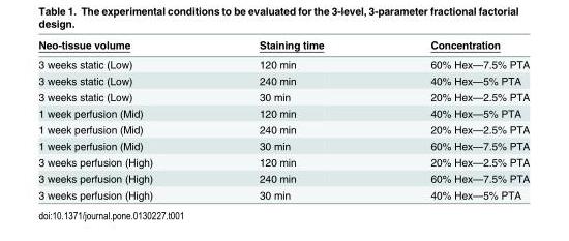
<table><thead><tr><td>Neo-tissue volume</td><td>Staining time</td><td>Concentration</td></tr></thead><tbody><tr><td>3 weeks static (Low)</td><td>120 min</td><td>60% Hex—7.5% PTA</td></tr><tr><td>3 weeks static (Low)</td><td>240 min</td><td>40% Hex—5% PTA</td></tr><tr><td>3 weeks static (Low)</td><td>30 min</td><td>20% Hex—2.5% PTA</td></tr><tr><td>1 week perfusion (Mid)</td><td>120 min</td><td>40% Hex—5% PTA</td></tr><tr><td>1 week perfusion (Mid)</td><td>240 min</td><td>20% Hex—2.5% PTA</td></tr><tr><td>1 week perfusion (Mid)</td><td>30 min</td><td>60% Hex—7.5% PTA</td></tr><tr><td>3 weeks perfusion (High)</td><td>120 min</td><td>20% Hex—2.5% PTA</td></tr><tr><td>3 weeks perfusion (High)</td><td>240 min</td><td>60% Hex—7.5% PTA</td></tr><tr><td>3 weeks perfusion (High)</td><td>30 min</td><td>40% Hex—5% PTA</td></tr></tbody></table>